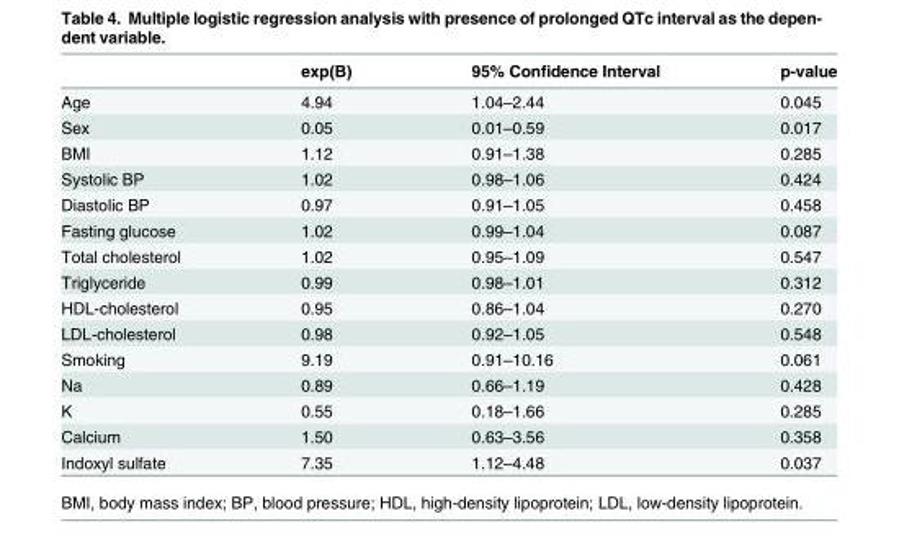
<table><thead><tr><td></td><td>exp(B)</td><td>95% Confidence Interval</td><td>p-value</td></tr></thead><tbody><tr><td>Age</td><td>4.94</td><td>1.04–2.44</td><td>0.045</td></tr><tr><td>Sex</td><td>0.05</td><td>0.01–0.59</td><td>0.017</td></tr><tr><td>BMI</td><td>1.12</td><td>0.91–1.38</td><td>0.285</td></tr><tr><td>Systolic BP</td><td>1.02</td><td>0.98–1.06</td><td>0.424</td></tr><tr><td>Diastolic BP</td><td>0.97</td><td>0.91–1.05</td><td>0.458</td></tr><tr><td>Fasting glucose</td><td>1.02</td><td>0.99–1.04</td><td>0.087</td></tr><tr><td>Total cholesterol</td><td>1.02</td><td>0.95–1.09</td><td>0.547</td></tr><tr><td>Triglyceride</td><td>0.99</td><td>0.98–1.01</td><td>0.312</td></tr><tr><td>HDL-cholesterol</td><td>0.95</td><td>0.86–1.04</td><td>0.270</td></tr><tr><td>LDL-cholesterol</td><td>0.98</td><td>0.92–1.05</td><td>0.548</td></tr><tr><td>Smoking</td><td>9.19</td><td>0.91–10.16</td><td>0.061</td></tr><tr><td>Na</td><td>0.89</td><td>0.66–1.19</td><td>0.428</td></tr><tr><td>K</td><td>0.55</td><td>0.18–1.66</td><td>0.285</td></tr><tr><td>Calcium</td><td>1.50</td><td>0.63–3.56</td><td>0.358</td></tr><tr><td>Indoxyl sulfate</td><td>7.35</td><td>1.12–4.48</td><td>0.037</td></tr></tbody></table>